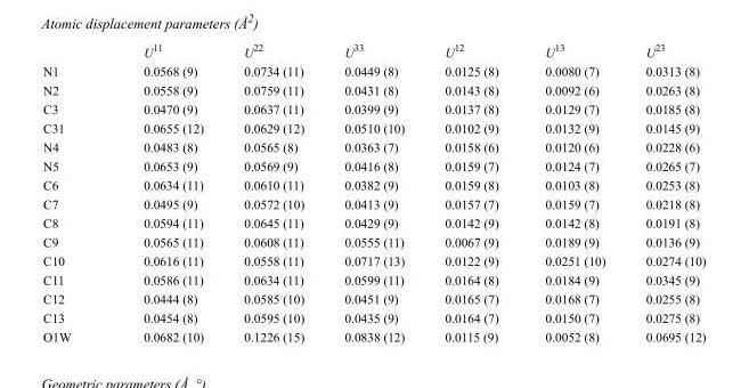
<table><thead><tr><td></td><td>U<sup>11</sup></td><td>U<sup>22</sup></td><td>U<sup>33</sup></td><td>U<sup>12</sup></td><td>U<sup>13</sup></td><td>U<sup>23</sup></td></tr></thead><tbody><tr><td>N1</td><td>0.0568 (9)</td><td>0.0734 (11)</td><td>0.0449 (8)</td><td>0.0125 (8)</td><td>0.0080 (7)</td><td>0.0313 (8)</td></tr><tr><td>N2</td><td>0.0558 (9)</td><td>0.0759 (11)</td><td>0.0431 (8)</td><td>0.0143 (8)</td><td>0.0092 (6)</td><td>0.0263 (8)</td></tr><tr><td>C3</td><td>0.0470 (9)</td><td>0.0637 (11)</td><td>0.0399 (9)</td><td>0.0137 (8)</td><td>0.0129 (7)</td><td>0.0185 (8)</td></tr><tr><td>C31</td><td>0.0655 (12)</td><td>0.0629 (12)</td><td>0.0510 (10)</td><td>0.0102 (9)</td><td>0.0132 (9)</td><td>0.0145 (9)</td></tr><tr><td>N4</td><td>0.0483 (8)</td><td>0.0565 (8)</td><td>0.0363 (7)</td><td>0.0158 (6)</td><td>0.0120 (6)</td><td>0.0228 (6)</td></tr><tr><td>N5</td><td>0.0653 (9)</td><td>0.0569 (9)</td><td>0.0416 (8)</td><td>0.0159 (7)</td><td>0.0124 (7)</td><td>0.0265 (7)</td></tr><tr><td>C6</td><td>0.0634 (11)</td><td>0.0610 (11)</td><td>0.0382 (9)</td><td>0.0159 (8)</td><td>0.0103 (8)</td><td>0.0253 (8)</td></tr><tr><td>C7</td><td>0.0495 (9)</td><td>0.0572 (10)</td><td>0.0413 (9)</td><td>0.0157 (7)</td><td>0.0159 (7)</td><td>0.0218 (8)</td></tr><tr><td>C8</td><td>0.0594 (11)</td><td>0.0645 (11)</td><td>0.0429 (9)</td><td>0.0142 (9)</td><td>0.0142 (8)</td><td>0.0191 (8)</td></tr><tr><td>C9</td><td>0.0565 (11)</td><td>0.0608 (11)</td><td>0.0555 (11)</td><td>0.0067 (9)</td><td>0.0189 (9)</td><td>0.0136 (9)</td></tr><tr><td>C10</td><td>0.0616 (11)</td><td>0.0558 (11)</td><td>0.0717 (13)</td><td>0.0122 (9)</td><td>0.0251 (10)</td><td>0.0274 (10)</td></tr><tr><td>C11</td><td>0.0586 (11)</td><td>0.0634 (11)</td><td>0.0599 (11)</td><td>0.0164 (8)</td><td>0.0184 (9)</td><td>0.0345 (9)</td></tr><tr><td>C12</td><td>0.0444 (8)</td><td>0.0585 (10)</td><td>0.0451 (9)</td><td>0.0165 (7)</td><td>0.0168 (7)</td><td>0.0255 (8)</td></tr><tr><td>C13</td><td>0.0454 (8)</td><td>0.0595 (10)</td><td>0.0435 (9)</td><td>0.0164 (7)</td><td>0.0150 (7)</td><td>0.0275 (8)</td></tr><tr><td>O1W</td><td>0.0682 (10)</td><td>0.1226 (15)</td><td>0.0838 (12)</td><td>0.0115 (9)</td><td>0.0052 (8)</td><td>0.0695 (12)</td></tr></tbody></table>